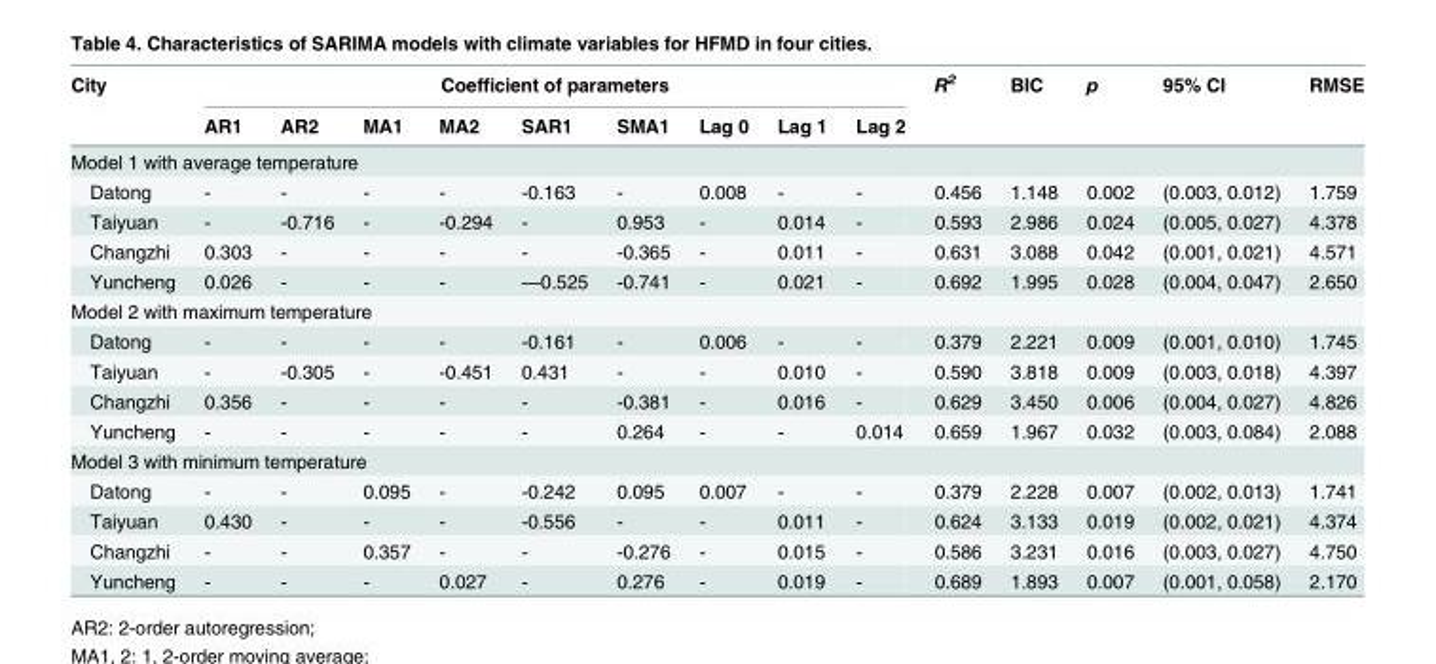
<table><thead><tr><td rowspan="2">City</td><td colspan="9">Coefficient of parameters</td><td rowspan="2">R<sup>2</sup></td><td rowspan="2">BIC</td><td rowspan="2">p</td><td rowspan="2">95% CI</td><td rowspan="2">RMSE</td></tr><tr><td>AR1</td><td>AR2</td><td>MA1</td><td>MA2</td><td>SAR1</td><td>SMA1</td><td>Lag 0</td><td>Lag 1</td><td>Lag 2</td></tr></thead><tbody><tr><td colspan="15">Model 1 with average temperature</td></tr><tr><td>Datong</td><td>-</td><td>-</td><td>-</td><td>-</td><td>-0.163</td><td>-</td><td>0.008</td><td>-</td><td>-</td><td>0.456</td><td>1.148</td><td>0.002</td><td>(0.003, 0.012)</td><td>1.759</td></tr><tr><td>Taiyuan</td><td>-</td><td>-0.716</td><td>-</td><td>-0.294</td><td>-</td><td>0.953</td><td>-</td><td>0.014</td><td>-</td><td>0.593</td><td>2.986</td><td>0.024</td><td>(0.005, 0.027)</td><td>4.378</td></tr><tr><td>Changzhi</td><td>0.303</td><td>-</td><td>-</td><td>-</td><td>-</td><td>-0.365</td><td>-</td><td>0.011</td><td>-</td><td>0.631</td><td>3.088</td><td>0.042</td><td>(0.001, 0.021)</td><td>4.571</td></tr><tr><td>Yuncheng</td><td>0.026</td><td>-</td><td>-</td><td>-</td><td>—0.525</td><td>-0.741</td><td>-</td><td>0.021</td><td>-</td><td>0.692</td><td>1.995</td><td>0.028</td><td>(0.004, 0.047)</td><td>2.650</td></tr><tr><td colspan="15">Model 2 with maximum temperature</td></tr><tr><td>Datong</td><td>-</td><td>-</td><td>-</td><td>-</td><td>-0.161</td><td>-</td><td>0.006</td><td>-</td><td>-</td><td>0.379</td><td>2.221</td><td>0.009</td><td>(0.001, 0.010)</td><td>1.745</td></tr><tr><td>Taiyuan</td><td>-</td><td>-0.305</td><td>-</td><td>-0.451</td><td>0.431</td><td>-</td><td>-</td><td>0.010</td><td>-</td><td>0.590</td><td>3.818</td><td>0.009</td><td>(0.003, 0.018)</td><td>4.397</td></tr><tr><td>Changzhi</td><td>0.356</td><td>-</td><td>-</td><td>-</td><td>-</td><td>-0.381</td><td>-</td><td>0.016</td><td>-</td><td>0.629</td><td>3.450</td><td>0.006</td><td>(0.004, 0.027)</td><td>4.826</td></tr><tr><td>Yuncheng</td><td>-</td><td>-</td><td>-</td><td>-</td><td>-</td><td>0.264</td><td>-</td><td>-</td><td>0.014</td><td>0.659</td><td>1.967</td><td>0.032</td><td>(0.003, 0.084)</td><td>2.088</td></tr><tr><td colspan="15">Model 3 with minimum temperature</td></tr><tr><td>Datong</td><td>-</td><td>-</td><td>0.095</td><td>-</td><td>-0.242</td><td>0.095</td><td>0.007</td><td>-</td><td>-</td><td>0.379</td><td>2.228</td><td>0.007</td><td>(0.002, 0.013)</td><td>1.741</td></tr><tr><td>Taiyuan</td><td>0.430</td><td>-</td><td>-</td><td>-</td><td>-0.556</td><td>-</td><td>-</td><td>0.011</td><td>-</td><td>0.624</td><td>3.133</td><td>0.019</td><td>(0.002, 0.021)</td><td>4.374</td></tr><tr><td>Changzhi</td><td>-</td><td>-</td><td>0.357</td><td>-</td><td>-</td><td>-0.276</td><td>-</td><td>0.015</td><td>-</td><td>0.586</td><td>3.231</td><td>0.016</td><td>(0.003, 0.027)</td><td>4.750</td></tr><tr><td>Yuncheng</td><td>-</td><td>-</td><td>-</td><td>0.027</td><td>-</td><td>0.276</td><td>-</td><td>0.019</td><td>-</td><td>0.689</td><td>1.893</td><td>0.007</td><td>(0.001, 0.058)</td><td>2.170</td></tr></tbody></table>